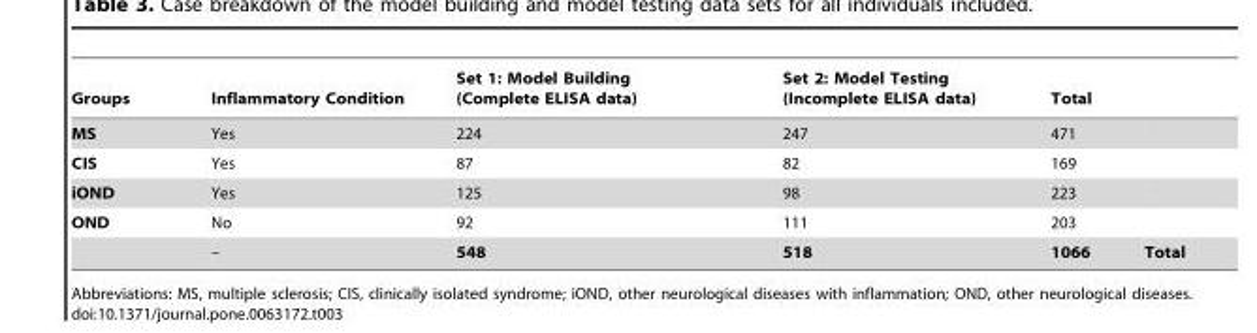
<table><thead><tr><td>Groups</td><td>Inflammatory Condition</td><td>Set 1: Model Building (Complete ELISA data)</td><td>Set 2: Model Testing (Incomplete ELISA data)</td><td>Total</td><td></td></tr></thead><tbody><tr><td>MS</td><td>Yes</td><td>224</td><td>247</td><td>471</td><td></td></tr><tr><td>CIS</td><td>Yes</td><td>87</td><td>82</td><td>169</td><td></td></tr><tr><td>iOND</td><td>Yes</td><td>125</td><td>98</td><td>223</td><td></td></tr><tr><td rowspan="2">OND</td><td>No</td><td>92</td><td>111</td><td>203</td><td></td></tr><tr><td>–</td><td>548</td><td>518</td><td>1066</td><td>Total</td></tr></tbody></table>